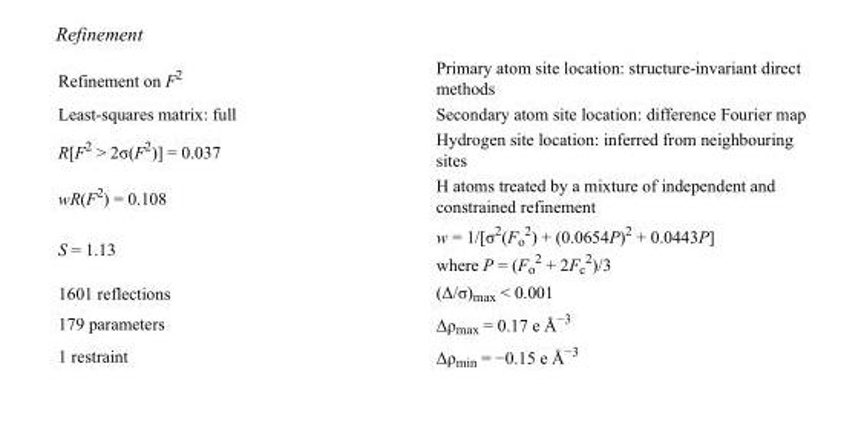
<table><tbody><tr><td>Refinement on F<sup>2</sup></td><td>Primary atom site location: structure-invariant direct methods</td></tr><tr><td>Least-squares matrix: full</td><td>Secondary atom site location: difference Fourier map</td></tr><tr><td>R[F<sup>2</sup> &gt; 2σ(F<sup>2</sup>)] = 0.037</td><td>Hydrogen site location: inferred from neighbouring sites</td></tr><tr><td>wR(F<sup>2</sup>) = 0.108</td><td>H atoms treated by a mixture of independent and constrained refinement</td></tr><tr><td>S = 1.13</td><td>w = 1/[σ<sup>2</sup>(F<sub>o</sub> <sup>2</sup>) + (0.0654P)<sup>2</sup> + 0.0443P] where P = (F<sub>o</sub> <sup>2</sup> + 2F<sub>c</sub> <sup>2</sup>)/3</td></tr><tr><td>1601 reflections</td><td>(Δ/σ)<sub>max</sub> &lt; 0.001</td></tr><tr><td>179 parameters</td><td>Δρ<sub>max</sub> = 0.17 e Å<sup>−3</sup></td></tr><tr><td>1 restraint</td><td>Δρ<sub>min</sub> = −0.15 e Å<sup>−3</sup></td></tr></tbody></table>